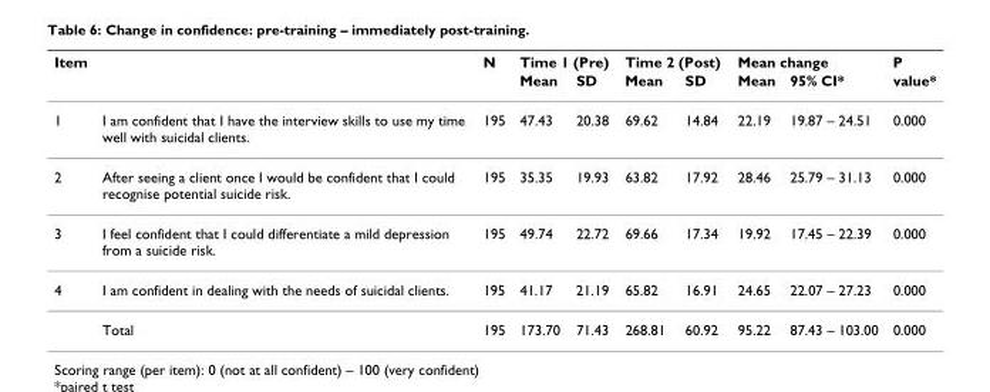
<table><thead><tr><td rowspan="2">Item</td><td rowspan="2"></td><td rowspan="2">N</td><td colspan="2">Time 1 (Pre)</td><td colspan="2">Time 2 (Post)</td><td colspan="2">Mean change</td><td rowspan="2">P value*</td></tr><tr><td>Mean</td><td>SD</td><td>Mean</td><td>SD</td><td>Mean</td><td>95% CI*</td></tr></thead><tbody><tr><td>1</td><td>I am confident that I have the interview skills to use my time well with suicidal clients.</td><td>195</td><td>47.43</td><td>20.38</td><td>69.62</td><td>14.84</td><td>22.19</td><td>19.87 – 24.51</td><td>0.000</td></tr><tr><td>2</td><td>After seeing a client once I would be confident that I could recognise potential suicide risk.</td><td>195</td><td>35.35</td><td>19.93</td><td>63.82</td><td>17.92</td><td>28.46</td><td>25.79 – 31.13</td><td>0.000</td></tr><tr><td>3</td><td>I feel confident that I could differentiate a mild depression from a suicide risk.</td><td>195</td><td>49.74</td><td>22.72</td><td>69.66</td><td>17.34</td><td>19.92</td><td>17.45 – 22.39</td><td>0.000</td></tr><tr><td rowspan="2">4</td><td>I am confident in dealing with the needs of suicidal clients.</td><td>195</td><td>41.17</td><td>21.19</td><td>65.82</td><td>16.91</td><td>24.65</td><td>22.07 – 27.23</td><td>0.000</td></tr><tr><td>Total</td><td>195</td><td>173.70</td><td>71.43</td><td>268.81</td><td>60.92</td><td>95.22</td><td>87.43 – 103.00</td><td>0.000</td></tr></tbody></table>